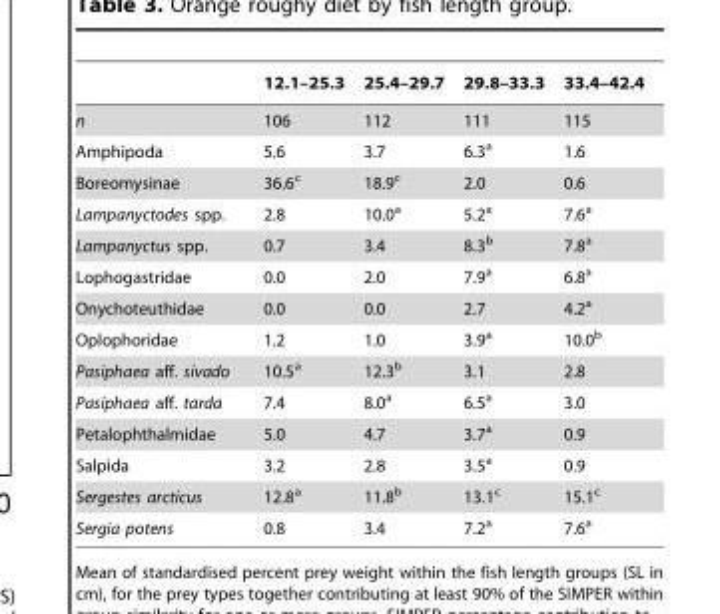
<table><thead><tr><td></td><td>12.1–25.3</td><td>25.4–29.7</td><td>29.8–33.3</td><td>33.4–42.4</td></tr></thead><tbody><tr><td>n</td><td>106</td><td>112</td><td>111</td><td>115</td></tr><tr><td>Amphipoda</td><td>5.6</td><td>3.7</td><td>6.3<sup>a</sup></td><td>1.6</td></tr><tr><td>Boreomysinae</td><td>36.6<sup>c</sup></td><td>18.9<sup>c</sup></td><td>2.0</td><td>0.6</td></tr><tr><td>Lampanyctodes spp.</td><td>2.8</td><td>10.0<sup>a</sup></td><td>5.2<sup>a</sup></td><td>7.6<sup>a</sup></td></tr><tr><td>Lampanyctus spp.</td><td>0.7</td><td>3.4</td><td>8.3<sup>b</sup></td><td>7.8<sup>a</sup></td></tr><tr><td>Lophogastridae</td><td>0.0</td><td>2.0</td><td>7.9<sup>a</sup></td><td>6.8<sup>a</sup></td></tr><tr><td>Onychoteuthidae</td><td>0.0</td><td>0.0</td><td>2.7</td><td>4.2<sup>a</sup></td></tr><tr><td>Oplophoridae</td><td>1.2</td><td>1.0</td><td>3.9<sup>a</sup></td><td>10.0<sup>b</sup></td></tr><tr><td>Pasiphaea aff. sivado</td><td>10.5<sup>a</sup></td><td>12.3<sup>b</sup></td><td>3.1</td><td>2.8</td></tr><tr><td>Pasiphaea aff. tarda</td><td>7.4</td><td>8.0<sup>a</sup></td><td>6.5<sup>a</sup></td><td>3.0</td></tr><tr><td>Petalophthalmidae</td><td>5.0</td><td>4.7</td><td>3.7<sup>a</sup></td><td>0.9</td></tr><tr><td>Salpida</td><td>3.2</td><td>2.8</td><td>3.5<sup>a</sup></td><td>0.9</td></tr><tr><td>Sergestes arcticus</td><td>12.8<sup>a</sup></td><td>11.8<sup>b</sup></td><td>13.1<sup>c</sup></td><td>15.1<sup>c</sup></td></tr><tr><td>Sergia potens</td><td>0.8</td><td>3.4</td><td>7.2<sup>a</sup></td><td>7.6<sup>a</sup></td></tr></tbody></table>